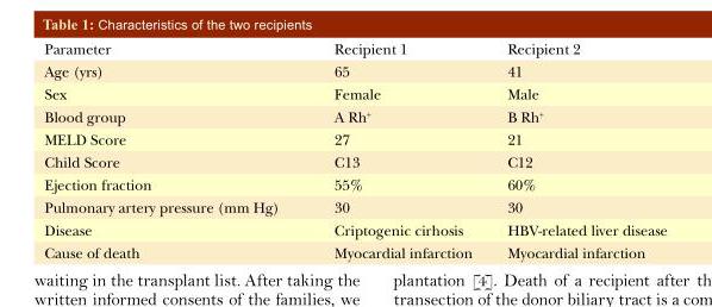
<table><thead><tr><td>Parameter</td><td>Recipient 1</td><td>Recipient 2</td></tr></thead><tbody><tr><td>Age (yrs)</td><td>65</td><td>41</td></tr><tr><td>Sex</td><td>Female</td><td>Male</td></tr><tr><td>Blood group</td><td>A Rh<sup>+</sup></td><td>B Rh<sup>+</sup></td></tr><tr><td>MELD Score</td><td>27</td><td>21</td></tr><tr><td>Child Score</td><td>C13</td><td>C12</td></tr><tr><td>Ejection fraction</td><td>55%</td><td>60%</td></tr><tr><td>Pulmonary artery pressure (mm Hg)</td><td>30</td><td>30</td></tr><tr><td>Disease</td><td>Criptogenic cirhosis</td><td>HBV-related liver disease</td></tr><tr><td>Cause of death</td><td>Myocardial infarction</td><td>Myocardial infarction</td></tr></tbody></table>